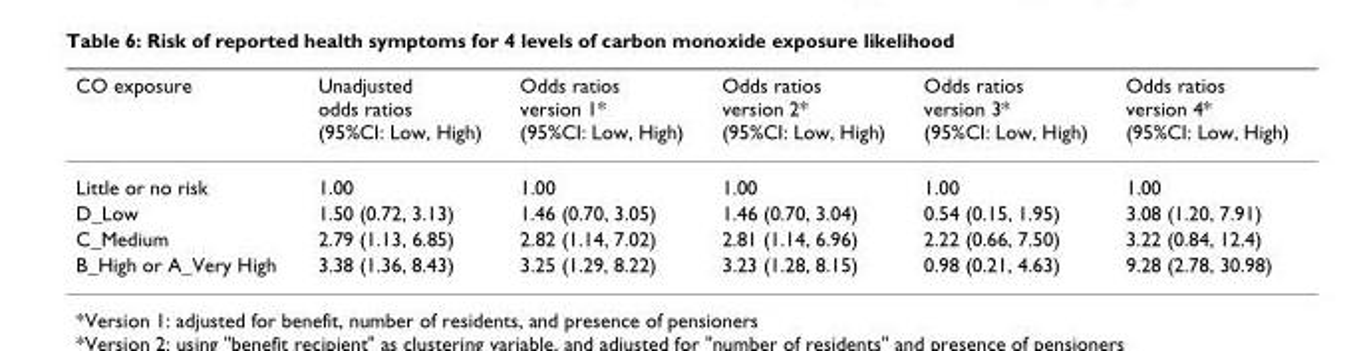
<table><thead><tr><td>CO exposure</td><td>Unadjusted odds ratios (95%CI: Low, High)</td><td>Odds ratios version 1* (95%CI: Low, High)</td><td>Odds ratios version 2* (95%CI: Low, High)</td><td>Odds ratios version 3* (95%CI: Low, High)</td><td>Odds ratios version 4* (95%CI: Low, High)</td></tr></thead><tbody><tr><td>Little or no risk</td><td>1.00</td><td>1.00</td><td>1.00</td><td>1.00</td><td>1.00</td></tr><tr><td>D_Low</td><td>1.50 (0.72, 3.13)</td><td>1.46 (0.70, 3.05)</td><td>1.46 (0.70, 3.04)</td><td>0.54 (0.15, 1.95)</td><td>3.08 (1.20, 7.91)</td></tr><tr><td>C_Medium</td><td>2.79 (1.13, 6.85)</td><td>2.82 (1.14, 7.02)</td><td>2.81 (1.14, 6.96)</td><td>2.22 (0.66, 7.50)</td><td>3.22 (0.84, 12.4)</td></tr><tr><td>B_High or A_Very High</td><td>3.38 (1.36, 8.43)</td><td>3.25 (1.29, 8.22)</td><td>3.23 (1.28, 8.15)</td><td>0.98 (0.21, 4.63)</td><td>9.28 (2.78, 30.98)</td></tr></tbody></table>